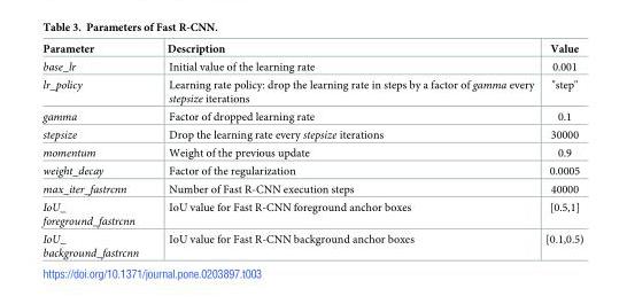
<table><thead><tr><td>Parameter</td><td>Description</td><td>Value</td></tr></thead><tbody><tr><td>base_lr</td><td>Initial value of the learning rate</td><td>0.001</td></tr><tr><td>lr_policy</td><td>Learning rate policy: drop the learning rate in steps by a factor of gamma every stepsize iterations</td><td>&quot;step&quot;</td></tr><tr><td>gamma</td><td>Factor of dropped learning rate</td><td>0.1</td></tr><tr><td>stepsize</td><td>Drop the learning rate every stepsize iterations</td><td>30000</td></tr><tr><td>momentum</td><td>Weight of the previous update</td><td>0.9</td></tr><tr><td>weight_decay</td><td>Factor of the regularization</td><td>0.0005</td></tr><tr><td>max_iter_fastrcnn</td><td>Number of Fast R-CNN execution steps</td><td>40000</td></tr><tr><td>IoU_ foreground_fastrcnn</td><td>IoU value for Fast R-CNN foreground anchor boxes</td><td>[0.5,1]</td></tr><tr><td>IoU_ background_fastrcnn</td><td>IoU value for Fast R-CNN background anchor boxes</td><td>[0.1,0.5)</td></tr></tbody></table>